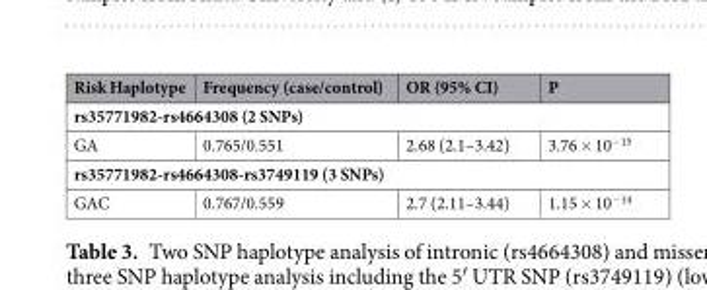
<table><thead><tr><td>Risk Haplotype</td><td>Frequency (case/control)</td><td>OR (95% CI)</td><td>P</td></tr></thead><tbody><tr><td colspan="4">rs35771982-rs4664308 (2 SNPs)</td></tr><tr><td>GA</td><td>0.765/0.551</td><td>2.68 (2.1–3.42)</td><td>3.76 × 10<sup>−15</sup></td></tr><tr><td colspan="4">rs35771982-rs4664308-rs3749119 (3 SNPs)</td></tr><tr><td>GAC</td><td>0.767/0.559</td><td>2.7 (2.11–3.44)</td><td>1.15 × 10<sup>−14</sup></td></tr></tbody></table>